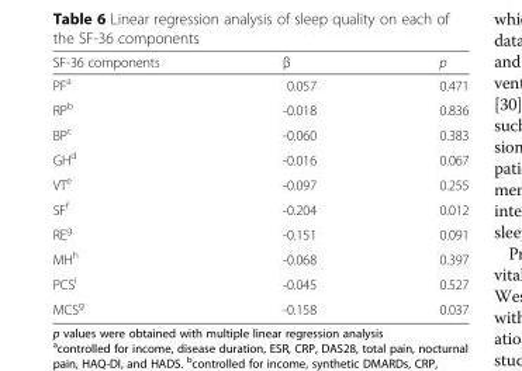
<table><thead><tr><td>SF-36 components</td><td>β</td><td>p</td></tr></thead><tbody><tr><td>PF<sup>a</sup></td><td>0.057</td><td>0.471</td></tr><tr><td>RP<sup>b</sup></td><td>-0.018</td><td>0.836</td></tr><tr><td>BP<sup>c</sup></td><td>-0.060</td><td>0.383</td></tr><tr><td>GH<sup>d</sup></td><td>-0.016</td><td>0.067</td></tr><tr><td>VT<sup>e</sup></td><td>-0.097</td><td>0.255</td></tr><tr><td>SF<sup>f</sup></td><td>-0.204</td><td>0.012</td></tr><tr><td>RE<sup>g</sup></td><td>-0.151</td><td>0.091</td></tr><tr><td>MH<sup>h</sup></td><td>-0.068</td><td>0.397</td></tr><tr><td>PCS<sup>i</sup></td><td>-0.045</td><td>0.527</td></tr><tr><td>MCS<sup>g</sup></td><td>-0.158</td><td>0.037</td></tr></tbody></table>